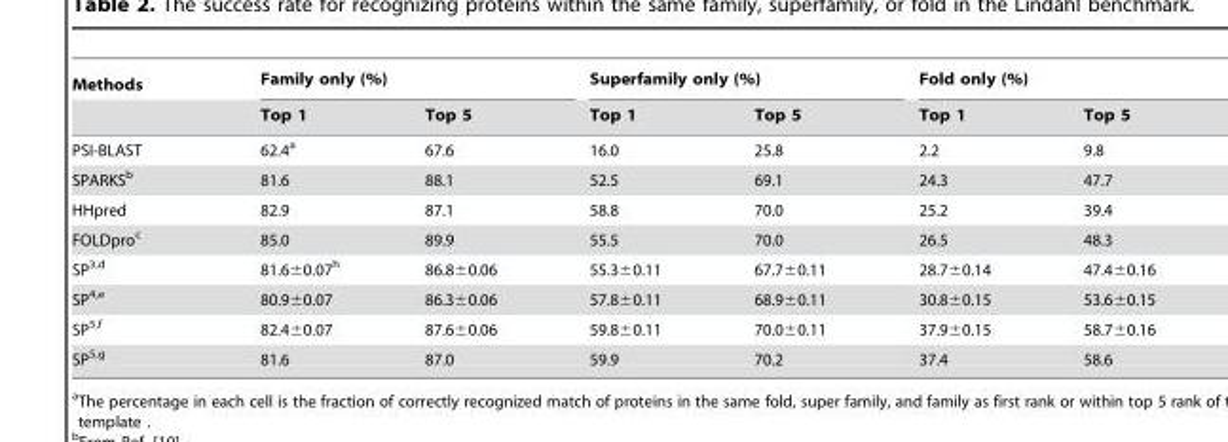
<table><thead><tr><td rowspan="2">Methods</td><td colspan="2">Family only (%)</td><td colspan="2">Superfamily only (%)</td><td colspan="2">Fold only (%)</td></tr><tr><td>Top 1</td><td>Top 5</td><td>Top 1</td><td>Top 5</td><td>Top 1</td><td>Top 5</td></tr></thead><tbody><tr><td>PSI-BLAST</td><td>62.4<sup>a</sup></td><td>67.6</td><td>16.0</td><td>25.8</td><td>2.2</td><td>9.8</td></tr><tr><td>SPARKS<sup>b</sup></td><td>81.6</td><td>88.1</td><td>52.5</td><td>69.1</td><td>24.3</td><td>47.7</td></tr><tr><td>HHpred</td><td>82.9</td><td>87.1</td><td>58.8</td><td>70.0</td><td>25.2</td><td>39.4</td></tr><tr><td>FOLDpro<sup>c</sup></td><td>85.0</td><td>89.9</td><td>55.5</td><td>70.0</td><td>26.5</td><td>48.3</td></tr><tr><td>SP<sup>3,</sup>d</td><td>81.6±0.07<sup>h</sup></td><td>86.8±0.06</td><td>55.3±0.11</td><td>67.7±0.11</td><td>28.7±0.14</td><td>47.4±0.16</td></tr><tr><td>SP<sup>4,</sup>e</td><td>80.9±0.07</td><td>86.3±0.06</td><td>57.8±0.11</td><td>68.9±0.11</td><td>30.8±0.15</td><td>53.6±0.15</td></tr><tr><td>SP<sup>5,</sup>f</td><td>82.4±0.07</td><td>87.6±0.06</td><td>59.8±0.11</td><td>70.0±0.11</td><td>37.9±0.15</td><td>58.7±0.16</td></tr><tr><td>SP<sup>5,</sup>g</td><td>81.6</td><td>87.0</td><td>59.9</td><td>70.2</td><td>37.4</td><td>58.6</td></tr></tbody></table>